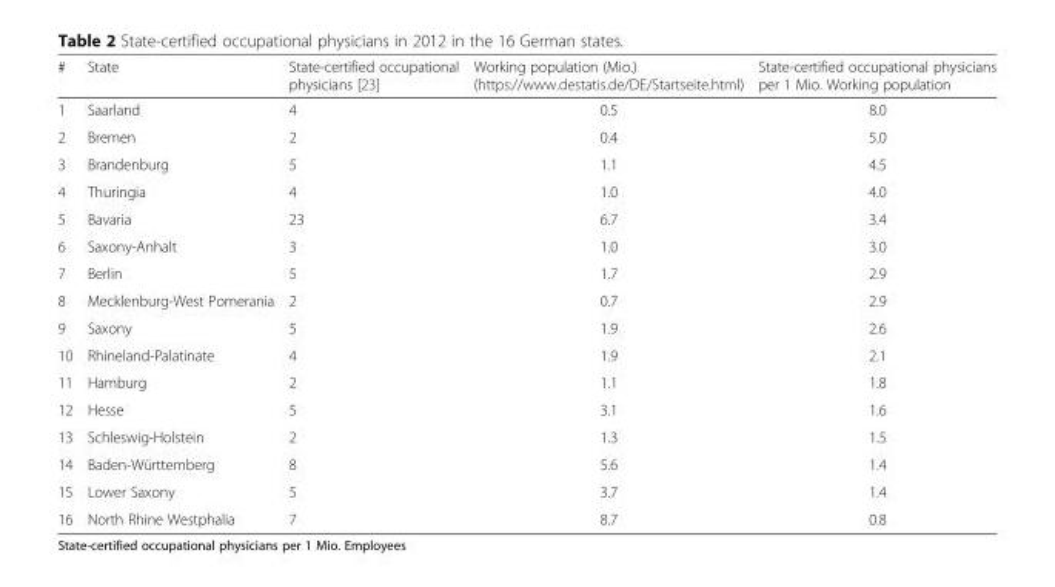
<table><thead><tr><td>#</td><td>State</td><td>State-certified occupational physicians [23]</td><td>Working population (Mio.) (https://www.destatis.de/DE/Startseite.html)</td><td>State-certified occupational physicians per 1 Mio. Working population</td></tr></thead><tbody><tr><td>1</td><td>Saarland</td><td>4</td><td>0.5</td><td>8.0</td></tr><tr><td>2</td><td>Bremen</td><td>2</td><td>0.4</td><td>5.0</td></tr><tr><td>3</td><td>Brandenburg</td><td>5</td><td>1.1</td><td>4.5</td></tr><tr><td>4</td><td>Thuringia</td><td>4</td><td>1.0</td><td>4.0</td></tr><tr><td>5</td><td>Bavaria</td><td>23</td><td>6.7</td><td>3.4</td></tr><tr><td>6</td><td>Saxony-Anhalt</td><td>3</td><td>1.0</td><td>3.0</td></tr><tr><td>7</td><td>Berlin</td><td>5</td><td>1.7</td><td>2.9</td></tr><tr><td>8</td><td>Mecklenburg-West Pomerania</td><td>2</td><td>0.7</td><td>2.9</td></tr><tr><td>9</td><td>Saxony</td><td>5</td><td>1.9</td><td>2.6</td></tr><tr><td>10</td><td>Rhineland-Palatinate</td><td>4</td><td>1.9</td><td>2.1</td></tr><tr><td>11</td><td>Hamburg</td><td>2</td><td>1.1</td><td>1.8</td></tr><tr><td>12</td><td>Hesse</td><td>5</td><td>3.1</td><td>1.6</td></tr><tr><td>13</td><td>Schleswig-Holstein</td><td>2</td><td>1.3</td><td>1.5</td></tr><tr><td>14</td><td>Baden-Württemberg</td><td>8</td><td>5.6</td><td>1.4</td></tr><tr><td>15</td><td>Lower Saxony</td><td>5</td><td>3.7</td><td>1.4</td></tr><tr><td>16</td><td>North Rhine Westphalia</td><td>7</td><td>8.7</td><td>0.8</td></tr></tbody></table>